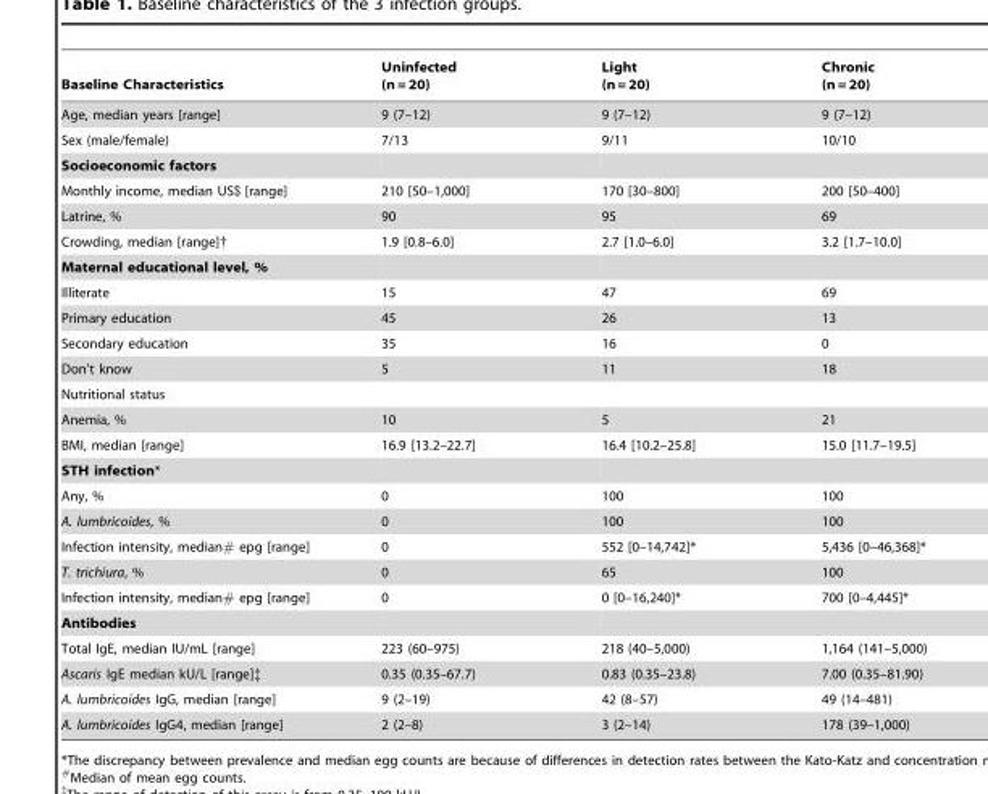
<table><thead><tr><td>Baseline Characteristics</td><td>Uninfected (n = 20)</td><td>Light (n = 20)</td><td>Chronic (n = 20)</td></tr></thead><tbody><tr><td>Age, median years [range]</td><td>9 (7–12)</td><td>9 (7–12)</td><td>9 (7–12)</td></tr><tr><td>Sex (male/female)</td><td>7/13</td><td>9/11</td><td>10/10</td></tr><tr><td colspan="4">Socioeconomic factors</td></tr><tr><td>Monthly income, median US$ [range]</td><td>210 [50–1,000]</td><td>170 [30–800]</td><td>200 [50–400]</td></tr><tr><td>Latrine, %</td><td>90</td><td>95</td><td>69</td></tr><tr><td>Crowding, median [range]†</td><td>1.9 [0.8–6.0]</td><td>2.7 [1.0–6.0]</td><td>3.2 [1.7–10.0]</td></tr><tr><td colspan="4">Maternal educational level, %</td></tr><tr><td>Illiterate</td><td>15</td><td>47</td><td>69</td></tr><tr><td>Primary education</td><td>45</td><td>26</td><td>13</td></tr><tr><td>Secondary education</td><td>35</td><td>16</td><td>0</td></tr><tr><td>Don’t know</td><td>5</td><td>11</td><td>18</td></tr><tr><td colspan="4">Nutritional status</td></tr><tr><td>Anemia, %</td><td>10</td><td>5</td><td>21</td></tr><tr><td>BMI, median [range]</td><td>16.9 [13.2–22.7]</td><td>16.4 [10.2–25.8]</td><td>15.0 [11.7–19.5]</td></tr><tr><td colspan="4">STH infection*</td></tr><tr><td>Any, %</td><td>0</td><td>100</td><td>100</td></tr><tr><td>A. lumbricoides, %</td><td>0</td><td>100</td><td>100</td></tr><tr><td>Infection intensity, median# epg [range]</td><td>0</td><td>552 [0–14,742]*</td><td>5,436 [0–46,368]*</td></tr><tr><td>T. trichiura, %</td><td>0</td><td>65</td><td>100</td></tr><tr><td>Infection intensity, median# epg [range]</td><td>0</td><td>0 [0–16,240]*</td><td>700 [0–4,445]*</td></tr><tr><td colspan="4">Antibodies</td></tr><tr><td>Total IgE, median IU/mL [range]</td><td>223 (60–975)</td><td>218 (40–5,000)</td><td>1,164 (141–5,000)</td></tr><tr><td>Ascaris IgE median kU/L [range]‡</td><td>0.35 (0.35–67.7)</td><td>0.83 (0.35–23.8)</td><td>7.00 (0.35–81.90)</td></tr><tr><td>A. lumbricoides IgG, median [range]</td><td>9 (2–19)</td><td>42 (8–57)</td><td>49 (14–481)</td></tr><tr><td>A. lumbricoides IgG4, median [range]</td><td>2 (2–8)</td><td>3 (2–14)</td><td>178 (39–1,000)</td></tr></tbody></table>